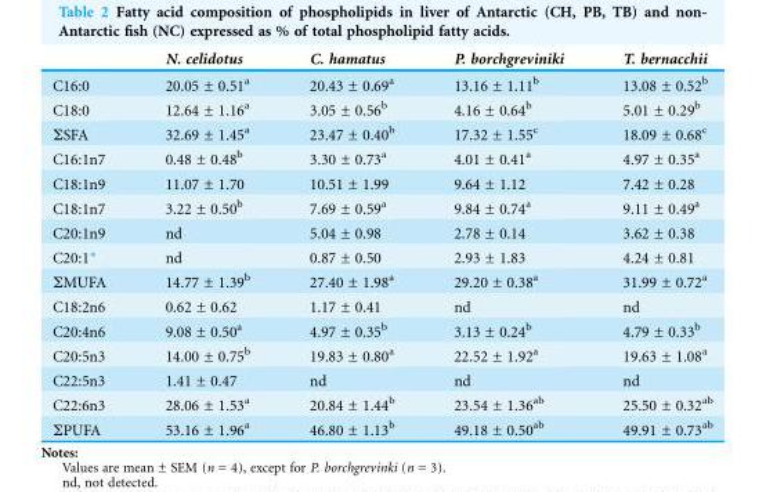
<table><thead><tr><td></td><td>N. celidotus</td><td>C. hamatus</td><td>P. borchgreviniki</td><td>T. bernacchii</td></tr></thead><tbody><tr><td>C16:0</td><td>20.05 ± 0.51<sup>a</sup></td><td>20.43 ± 0.69<sup>a</sup></td><td>13.16 ± 1.11<sup>b</sup></td><td>13.08 ± 0.52<sup>b</sup></td></tr><tr><td>C18:0</td><td>12.64 ± 1.16<sup>a</sup></td><td>3.05 ± 0.56<sup>b</sup></td><td>4.16 ± 0.64<sup>b</sup></td><td>5.01 ± 0.29<sup>b</sup></td></tr><tr><td>ΣSFA</td><td>32.69 ± 1.45<sup>a</sup></td><td>23.47 ± 0.40<sup>b</sup></td><td>17.32 ± 1.55<sup>c</sup></td><td>18.09 ± 0.68<sup>c</sup></td></tr><tr><td>C16:1n7</td><td>0.48 ± 0.48<sup>b</sup></td><td>3.30 ± 0.73<sup>a</sup></td><td>4.01 ± 0.41<sup>a</sup></td><td>4.97 ± 0.35<sup>a</sup></td></tr><tr><td>C18:1n9</td><td>11.07 ± 1.70</td><td>10.51 ± 1.99</td><td>9.64 ± 1.12</td><td>7.42 ± 0.28</td></tr><tr><td>C18:1n7</td><td>3.22 ± 0.50<sup>b</sup></td><td>7.69 ± 0.59<sup>a</sup></td><td>9.84 ± 0.74<sup>a</sup></td><td>9.11 ± 0.49<sup>a</sup></td></tr><tr><td>C20:1n9</td><td>nd</td><td>5.04 ± 0.98</td><td>2.78 ± 0.14</td><td>3.62 ± 0.38</td></tr><tr><td>C20:1*</td><td>nd</td><td>0.87 ± 0.50</td><td>2.93 ± 1.83</td><td>4.24 ± 0.81</td></tr><tr><td>ΣMUFA</td><td>14.77 ± 1.39<sup>b</sup></td><td>27.40 ± 1.98<sup>a</sup></td><td>29.20 ± 0.38<sup>a</sup></td><td>31.99 ± 0.72<sup>a</sup></td></tr><tr><td>C18:2n6</td><td>0.62 ± 0.62</td><td>1.17 ± 0.41</td><td>nd</td><td>nd</td></tr><tr><td>C20:4n6</td><td>9.08 ± 0.50<sup>a</sup></td><td>4.97 ± 0.35<sup>b</sup></td><td>3.13 ± 0.24<sup>b</sup></td><td>4.79 ± 0.33<sup>b</sup></td></tr><tr><td>C20:5n3</td><td>14.00 ± 0.75<sup>b</sup></td><td>19.83 ± 0.80<sup>a</sup></td><td>22.52 ± 1.92<sup>a</sup></td><td>19.63 ± 1.08<sup>a</sup></td></tr><tr><td>C22:5n3</td><td>1.41 ± 0.47</td><td>nd</td><td>nd</td><td>nd</td></tr><tr><td>C22:6n3</td><td>28.06 ± 1.53<sup>a</sup></td><td>20.84 ± 1.44<sup>b</sup></td><td>23.54 ± 1.36<sup>ab</sup></td><td>25.50 ± 0.32<sup>ab</sup></td></tr><tr><td>ΣPUFA</td><td>53.16 ± 1.96<sup>a</sup></td><td>46.80 ± 1.13<sup>b</sup></td><td>49.18 ± 0.50<sup>ab</sup></td><td>49.91 ± 0.73<sup>ab</sup></td></tr></tbody></table>